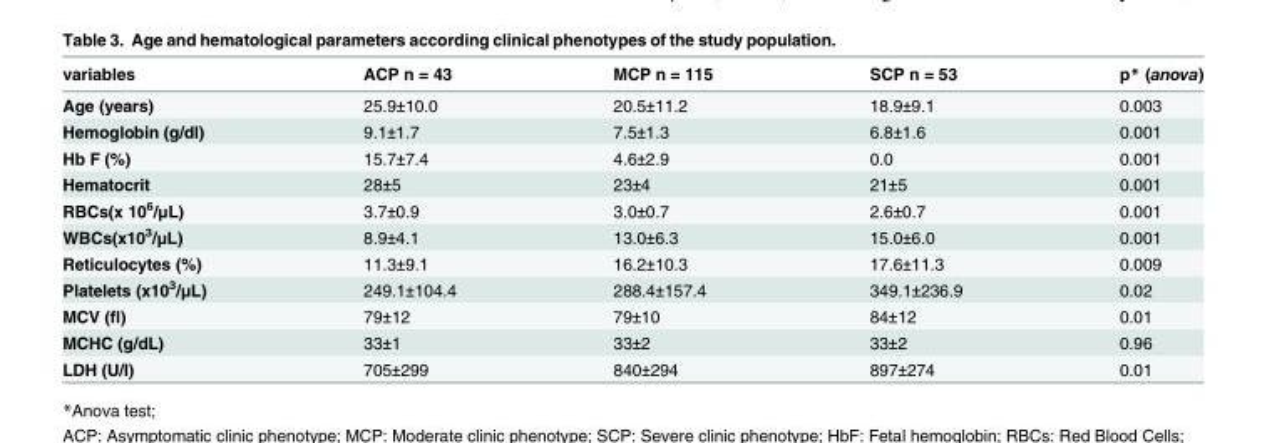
<table><thead><tr><td>variables</td><td>ACP n = 43</td><td>MCP n = 115</td><td>SCP n = 53</td><td>p* (anova)</td></tr></thead><tbody><tr><td>Age (years)</td><td>25.9±10.0</td><td>20.5±11.2</td><td>18.9±9.1</td><td>0.003</td></tr><tr><td>Hemoglobin (g/dl)</td><td>9.1±1.7</td><td>7.5±1.3</td><td>6.8±1.6</td><td>0.001</td></tr><tr><td>Hb F (%)</td><td>15.7±7.4</td><td>4.6±2.9</td><td>0.0</td><td>0.001</td></tr><tr><td>Hematocrit</td><td>28±5</td><td>23±4</td><td>21±5</td><td>0.001</td></tr><tr><td>RBCs(x 10<sup>6</sup>/μL)</td><td>3.7±0.9</td><td>3.0±0.7</td><td>2.6±0.7</td><td>0.001</td></tr><tr><td>WBCs(x10<sup>3</sup>/μL)</td><td>8.9±4.1</td><td>13.0±6.3</td><td>15.0±6.0</td><td>0.001</td></tr><tr><td>Reticulocytes (%)</td><td>11.3±9.1</td><td>16.2±10.3</td><td>17.6±11.3</td><td>0.009</td></tr><tr><td>Platelets (x10<sup>3</sup>/μL)</td><td>249.1±104.4</td><td>288.4±157.4</td><td>349.1±236.9</td><td>0.02</td></tr><tr><td>MCV (fl)</td><td>79±12</td><td>79±10</td><td>84±12</td><td>0.01</td></tr><tr><td>MCHC (g/dL)</td><td>33±1</td><td>33±2</td><td>33±2</td><td>0.96</td></tr><tr><td>LDH (U/I)</td><td>705±299</td><td>840±294</td><td>897±274</td><td>0.01</td></tr></tbody></table>